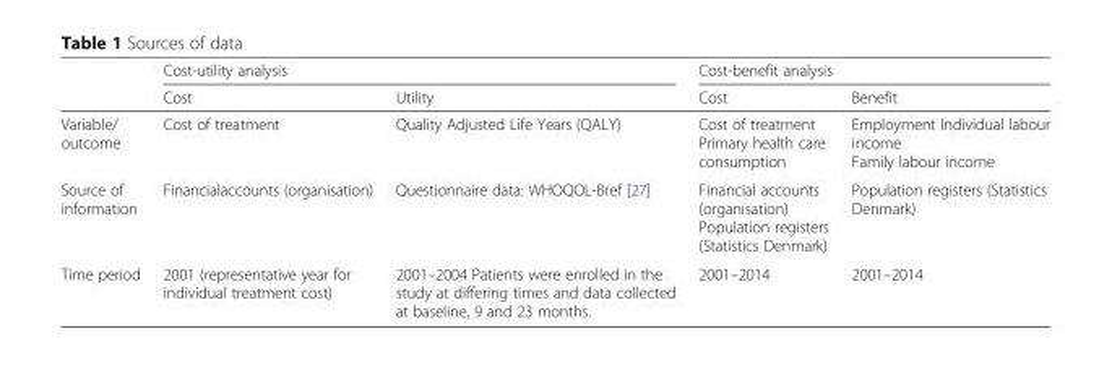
<table><thead><tr><td rowspan="2"></td><td colspan="2">Cost-utility analysis</td><td colspan="2">Cost-benefit analysis</td></tr><tr><td>Cost</td><td>Utility</td><td>Cost</td><td>Benefit</td></tr></thead><tbody><tr><td>Variable/ outcome</td><td>Cost of treatment</td><td>Quality Adjusted Life Years (QALY)</td><td>Cost of treatment Primary health care consumption</td><td>Employment Individual labour income Family labour income</td></tr><tr><td>Source of information</td><td>Financialaccounts (organisation)</td><td>Questionnaire data: WHOQOL-Bref [27]</td><td>Financial accounts (organisation) Population registers (Statistics Denmark)</td><td>Population registers (Statistics Denmark)</td></tr><tr><td>Time period</td><td>2001 (representative year for individual treatment cost)</td><td>2001–2004 Patients were enrolled in the study at differing times and data collected at baseline, 9 and 23 months.</td><td>2001–2014</td><td>2001–2014</td></tr></tbody></table>